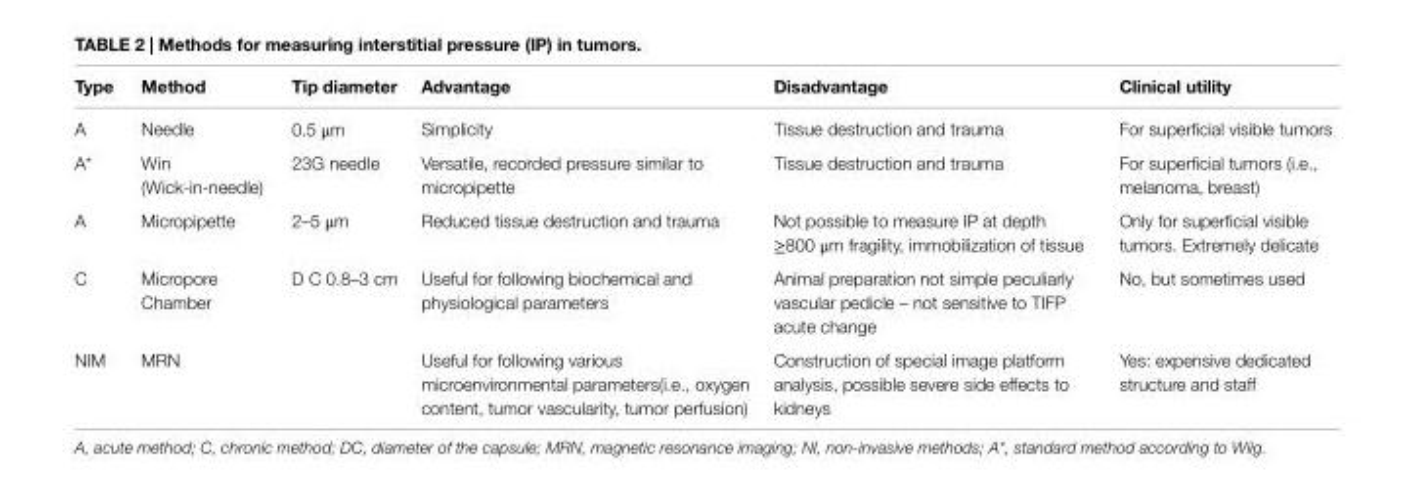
<table><thead><tr><td>Type</td><td>Method</td><td>Tip diameter</td><td>Advantage</td><td>Disadvantage</td><td>Clinical utility</td></tr></thead><tbody><tr><td>A</td><td>Needle</td><td>0.5 μm</td><td>Simplicity</td><td>Tissue destruction and trauma</td><td>For superficial visible tumors</td></tr><tr><td>A*</td><td>Win (Wick-in-needle)</td><td>23G needle</td><td>Versatile, recorded pressure similar to micropipette</td><td>Tissue destruction and trauma</td><td>For superficial tumors (i.e., melanoma, breast)</td></tr><tr><td>A</td><td>Micropipette</td><td>2–5 μm</td><td>Reduced tissue destruction and trauma</td><td>Not possible to measure IP at depth ≥800 μm fragility, immobilization of tissue</td><td>Only for superficial visible tumors. Extremely delicate</td></tr><tr><td>C</td><td>Micropore Chamber</td><td>D C 0.8–3 cm</td><td>Useful for following biochemical and physiological parameters</td><td>Animal preparation not simple peculiarly vascular pedicle – not sensitive to TIFP acute change</td><td>No, but sometimes used</td></tr><tr><td>NIM</td><td>MRN</td><td></td><td>Useful for following various microenvironmental parameters(i.e., oxygen content, tumor vascularity, tumor perfusion)</td><td>Construction of special image platform analysis, possible severe side effects to kidneys</td><td>Yes: expensive dedicated structure and staff</td></tr></tbody></table>